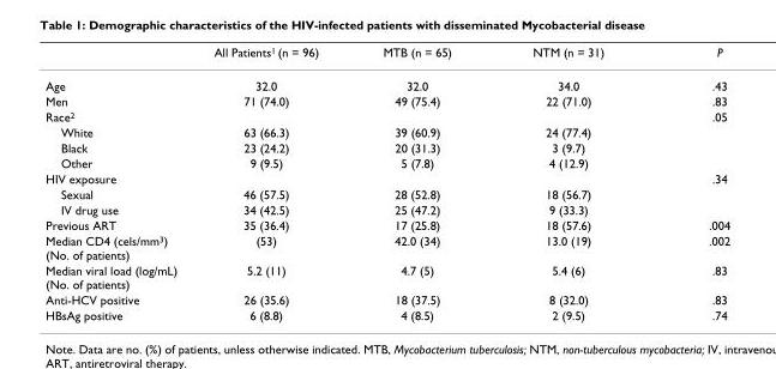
<table><thead><tr><td></td><td>All Patients<sup>1</sup> (n = 96)</td><td>MTB (n = 65)</td><td>NTM (n = 31)</td><td>P</td></tr></thead><tbody><tr><td>Age</td><td>32.0</td><td>32.0</td><td>34.0</td><td>.43</td></tr><tr><td>Men</td><td>71 (74.0)</td><td>49 (75.4)</td><td>22 (71.0)</td><td>.83</td></tr><tr><td>Race<sup>2</sup></td><td></td><td></td><td></td><td>.05</td></tr><tr><td>White</td><td>63 (66.3)</td><td>39 (60.9)</td><td>24 (77.4)</td><td></td></tr><tr><td>Black</td><td>23 (24.2)</td><td>20 (31.3)</td><td>3 (9.7)</td><td></td></tr><tr><td>Other</td><td>9 (9.5)</td><td>5 (7.8)</td><td>4 (12.9)</td><td></td></tr><tr><td>HIV exposure</td><td></td><td></td><td></td><td>.34</td></tr><tr><td>Sexual</td><td>46 (57.5)</td><td>28 (52.8)</td><td>18 (56.7)</td><td></td></tr><tr><td>IV drug use</td><td>34 (42.5)</td><td>25 (47.2)</td><td>9 (33.3)</td><td></td></tr><tr><td>Previous ART</td><td>35 (36.4)</td><td>17 (25.8)</td><td>18 (57.6)</td><td>.004</td></tr><tr><td>Median CD4 (cels/mm<sup>3</sup>) (No. of patients)</td><td>(53)</td><td>42.0 (34)</td><td>13.0 (19)</td><td>.002</td></tr><tr><td>Median viral load (log/mL) (No. of patients)</td><td>5.2 (11)</td><td>4.7 (5)</td><td>5.4 (6)</td><td>.83</td></tr><tr><td>Anti-HCV positive</td><td>26 (35.6)</td><td>18 (37.5)</td><td>8 (32.0)</td><td>.83</td></tr><tr><td>HBsAg positive</td><td>6 (8.8)</td><td>4 (8.5)</td><td>2 (9.5)</td><td>.74</td></tr></tbody></table>